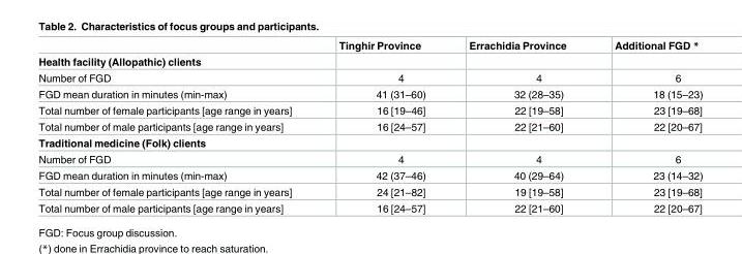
<table><thead><tr><td></td><td>Tinghir Province</td><td>Errachidia Province</td><td>Additional FGD *</td></tr></thead><tbody><tr><td colspan="4">Health facility (Allopathic) clients</td></tr><tr><td>Number of FGD</td><td>4</td><td>4</td><td>6</td></tr><tr><td>FGD mean duration in minutes (min-max)</td><td>41 (31–60)</td><td>32 (28–35)</td><td>18 (15–23)</td></tr><tr><td>Total number of female participants [age range in years]</td><td>16 [19–46]</td><td>22 [19–58]</td><td>23 [19–68]</td></tr><tr><td>Total number of male participants [age range in years]</td><td>16 [24–57]</td><td>22 [21–60]</td><td>22 [20–67]</td></tr><tr><td colspan="4">Traditional medicine (Folk) clients</td></tr><tr><td>Number of FGD</td><td>4</td><td>4</td><td>6</td></tr><tr><td>FGD mean duration in minutes (min-max)</td><td>42 (37–46)</td><td>40 (29–64)</td><td>23 (14–32)</td></tr><tr><td>Total number of female participants [age range in years]</td><td>24 [21–82]</td><td>19 [19–58]</td><td>23 [19–68]</td></tr><tr><td>Total number of male participants [age range in years]</td><td>16 [24–57]</td><td>22 [21–60]</td><td>22 [20–67]</td></tr></tbody></table>